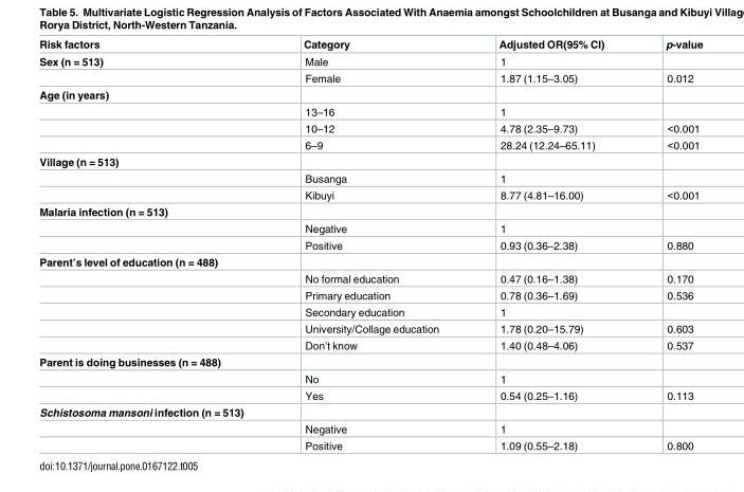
<table><thead><tr><td>Risk factors</td><td>Category</td><td>Adjusted OR(95% CI)</td><td>p-value</td></tr></thead><tbody><tr><td rowspan="2">Sex (n = 513)</td><td>Male</td><td>1</td><td></td></tr><tr><td>Female</td><td>1.87 (1.15–3.05)</td><td>0.012</td></tr><tr><td colspan="4">Age (in years)</td></tr><tr><td></td><td>13–16</td><td>1</td><td></td></tr><tr><td></td><td>10–12</td><td>4.78 (2.35–9.73)</td><td>&lt;0.001</td></tr><tr><td></td><td>6–9</td><td>28.24 (12.24–65.11)</td><td>&lt;0.001</td></tr><tr><td colspan="4">Village (n = 513)</td></tr><tr><td></td><td>Busanga</td><td>1</td><td></td></tr><tr><td></td><td>Kibuyi</td><td>8.77 (4.81–16.00)</td><td>&lt;0.001</td></tr><tr><td colspan="4">Malaria infection (n = 513)</td></tr><tr><td></td><td>Negative</td><td>1</td><td></td></tr><tr><td></td><td>Positive</td><td>0.93 (0.36–2.38)</td><td>0.880</td></tr><tr><td colspan="4">Parent’s level of education (n = 488)</td></tr><tr><td></td><td>No formal education</td><td>0.47 (0.16–1.38)</td><td>0.170</td></tr><tr><td></td><td>Primary education</td><td>0.78 (0.36–1.69)</td><td>0.536</td></tr><tr><td></td><td>Secondary education</td><td>1</td><td></td></tr><tr><td></td><td>University/Collage education</td><td>1.78 (0.20–15.79)</td><td>0.603</td></tr><tr><td></td><td>Don’t know</td><td>1.40 (0.48–4.06)</td><td>0.537</td></tr><tr><td colspan="4">Parent is doing businesses (n = 488)</td></tr><tr><td></td><td>No</td><td>1</td><td></td></tr><tr><td></td><td>Yes</td><td>0.54 (0.25–1.16)</td><td>0.113</td></tr><tr><td colspan="4">Schistosoma mansoni infection (n = 513)</td></tr><tr><td></td><td>Negative</td><td>1</td><td></td></tr><tr><td></td><td>Positive</td><td>1.09 (0.55–2.18)</td><td>0.800</td></tr></tbody></table>